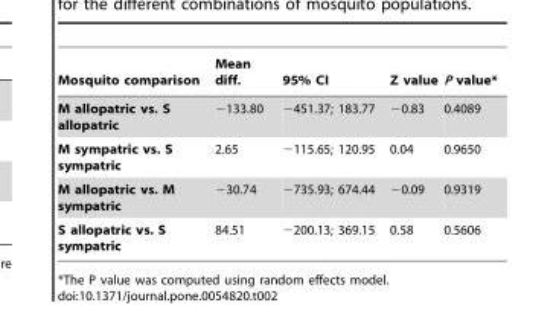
<table><thead><tr><td>Mosquito comparison</td><td>Mean diff.</td><td>95% CI</td><td>Z value</td><td>P value*</td></tr></thead><tbody><tr><td>M allopatric vs. S allopatric</td><td>−133.80</td><td>−451.37; 183.77</td><td>−0.83</td><td>0.4089</td></tr><tr><td>M sympatric vs. S sympatric</td><td>2.65</td><td>−115.65; 120.95</td><td>0.04</td><td>0.9650</td></tr><tr><td>M allopatric vs. M sympatric</td><td>−30.74</td><td>−735.93; 674.44</td><td>−0.09</td><td>0.9319</td></tr><tr><td>S allopatric vs. S sympatric</td><td>84.51</td><td>−200.13; 369.15</td><td>0.58</td><td>0.5606</td></tr></tbody></table>